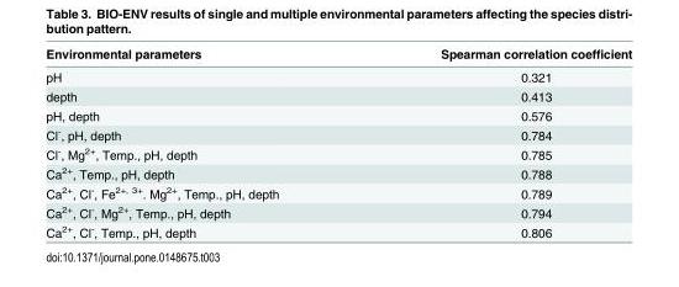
<table><thead><tr><td>Environmental parameters</td><td>Spearman correlation coefficient</td></tr></thead><tbody><tr><td>pH</td><td>0.321</td></tr><tr><td>depth</td><td>0.413</td></tr><tr><td>pH, depth</td><td>0.576</td></tr><tr><td>Cl<sup>-</sup>, pH, depth</td><td>0.784</td></tr><tr><td>Cl<sup>-</sup>, Mg<sup>2+</sup>, Temp., pH, depth</td><td>0.785</td></tr><tr><td>Ca<sup>2+</sup>, Temp., pH, depth</td><td>0.788</td></tr><tr><td>Ca<sup>2+</sup>, Cl<sup>-</sup>, Fe<sup>2+, 3+</sup>. Mg<sup>2+</sup>, Temp., pH, depth</td><td>0.789</td></tr><tr><td>Ca<sup>2+</sup>, Cl<sup>-</sup>, Mg<sup>2+</sup>, Temp., pH, depth</td><td>0.794</td></tr><tr><td>Ca<sup>2+</sup>, Cl<sup>-</sup>, Temp., pH, depth</td><td>0.806</td></tr></tbody></table>